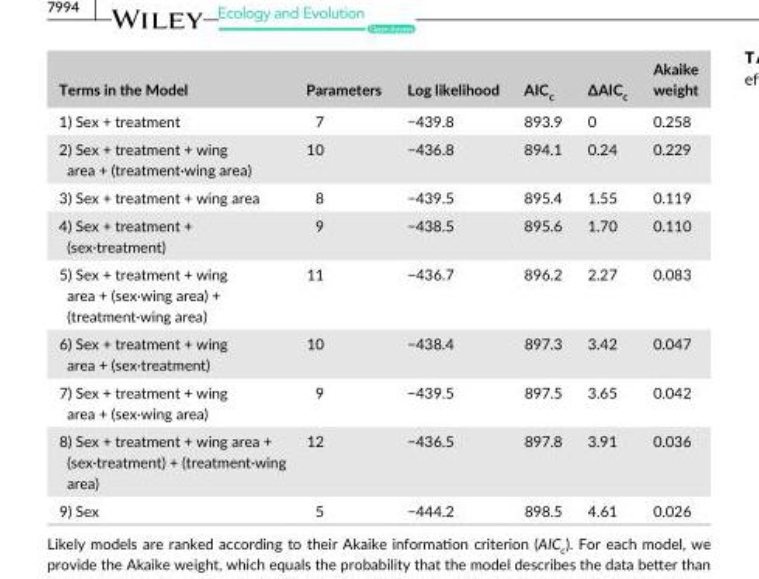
<table><thead><tr><td>Terms in the Model</td><td>Parameters</td><td>Log likelihood</td><td>AIC<sub>c</sub></td><td>ΔAIC<sub>c</sub></td><td>Akaike weight</td></tr></thead><tbody><tr><td>1) Sex + treatment</td><td>7</td><td>−439.8</td><td>893.9</td><td>0</td><td>0.258</td></tr><tr><td>2) Sex + treatment + wing area + (treatment·wing area)</td><td>10</td><td>−436.8</td><td>894.1</td><td>0.24</td><td>0.229</td></tr><tr><td>3) Sex + treatment + wing area</td><td>8</td><td>−439.5</td><td>895.4</td><td>1.55</td><td>0.119</td></tr><tr><td>4) Sex + treatment + (sex·treatment)</td><td>9</td><td>−438.5</td><td>895.6</td><td>1.70</td><td>0.110</td></tr><tr><td>5) Sex + treatment + wing area + (sex·wing area) + (treatment·wing area)</td><td>11</td><td>−436.7</td><td>896.2</td><td>2.27</td><td>0.083</td></tr><tr><td>6) Sex + treatment + wing area + (sex·treatment)</td><td>10</td><td>−438.4</td><td>897.3</td><td>3.42</td><td>0.047</td></tr><tr><td>7) Sex + treatment + wing area + (sex·wing area)</td><td>9</td><td>−439.5</td><td>897.5</td><td>3.65</td><td>0.042</td></tr><tr><td>8) Sex + treatment + wing area + (sex·treatment) + (treatment·wing area)</td><td>12</td><td>−436.5</td><td>897.8</td><td>3.91</td><td>0.036</td></tr><tr><td>9) Sex</td><td>5</td><td>−444.2</td><td>898.5</td><td>4.61</td><td>0.026</td></tr></tbody></table>